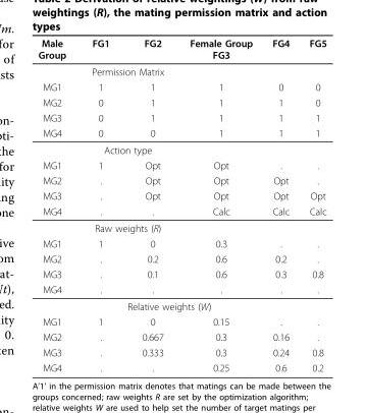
<table><thead><tr><td>Male Group</td><td>FG1</td><td>FG2</td><td>Female Group FG3</td><td>FG4</td><td>FG5</td></tr></thead><tbody><tr><td></td><td colspan="2">Permission Matrix</td><td></td><td></td><td></td></tr><tr><td>MG1</td><td>1</td><td>1</td><td>1</td><td>0</td><td>0</td></tr><tr><td>MG2</td><td>0</td><td>1</td><td>1</td><td>1</td><td>0</td></tr><tr><td>MG3</td><td>0</td><td>1</td><td>1</td><td>1</td><td>1</td></tr><tr><td rowspan="2">MG4</td><td>0</td><td>0</td><td>1</td><td>1</td><td>1</td></tr><tr><td colspan="2">Action type</td><td></td><td></td><td></td></tr><tr><td>MG1</td><td>1</td><td>Opt</td><td>Opt</td><td>.</td><td>.</td></tr><tr><td>MG2</td><td>.</td><td>Opt</td><td>Opt</td><td>Opt</td><td>.</td></tr><tr><td>MG3</td><td>.</td><td>Opt</td><td>Opt</td><td>Opt</td><td>Opt</td></tr><tr><td rowspan="2">MG4</td><td>.</td><td>.</td><td>Calc</td><td>Calc</td><td>Calc</td></tr><tr><td colspan="2">Raw weights (R)</td><td></td><td></td><td></td></tr><tr><td>MG1</td><td>1</td><td>0</td><td>0.3</td><td>.</td><td>.</td></tr><tr><td>MG2</td><td>.</td><td>0.2</td><td>0.6</td><td>0.2</td><td>.</td></tr><tr><td>MG3</td><td>.</td><td>0.1</td><td>0.6</td><td>0.3</td><td>0.8</td></tr><tr><td rowspan="2">MG4</td><td>.</td><td>.</td><td>.</td><td>.</td><td>.</td></tr><tr><td colspan="3">Relative weights (W)</td><td></td><td></td></tr><tr><td>MG1</td><td>1</td><td>0</td><td>0.15</td><td>.</td><td>.</td></tr><tr><td>MG2</td><td>.</td><td>0.667</td><td>0.3</td><td>0.16</td><td>.</td></tr><tr><td>MG3</td><td>.</td><td>0.333</td><td>0.3</td><td>0.24</td><td>0.8</td></tr><tr><td>MG4</td><td>.</td><td>.</td><td>0.25</td><td>0.6</td><td>0.2</td></tr></tbody></table>